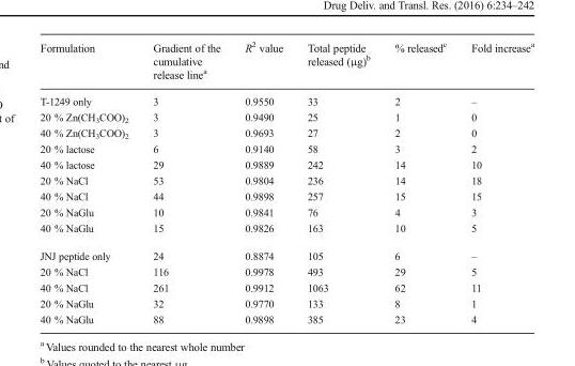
<table><thead><tr><td>Formulation</td><td>Gradient of the cumulative release line<sup>a</sup></td><td>R<sup>2</sup> value</td><td>Total peptide released (μg)<sup>b</sup></td><td>% released<sup>c</sup></td><td>Fold increase<sup>a</sup></td></tr></thead><tbody><tr><td>T-1249 only</td><td>3</td><td>0.9550</td><td>33</td><td>2</td><td>–</td></tr><tr><td>20 % Zn(CH<sub>3</sub>COO)<sub>2</sub></td><td>3</td><td>0.9490</td><td>25</td><td>1</td><td>0</td></tr><tr><td>40 % Zn(CH<sub>3</sub>COO)<sub>2</sub></td><td>3</td><td>0.9693</td><td>27</td><td>2</td><td>0</td></tr><tr><td>20 % lactose</td><td>6</td><td>0.9140</td><td>58</td><td>3</td><td>2</td></tr><tr><td>40 % lactose</td><td>29</td><td>0.9889</td><td>242</td><td>14</td><td>10</td></tr><tr><td>20 % NaCl</td><td>53</td><td>0.9804</td><td>236</td><td>14</td><td>18</td></tr><tr><td>40 % NaCl</td><td>44</td><td>0.9898</td><td>257</td><td>15</td><td>15</td></tr><tr><td>20 % NaGlu</td><td>10</td><td>0.9841</td><td>76</td><td>4</td><td>3</td></tr><tr><td>40 % NaGlu</td><td>15</td><td>0.9826</td><td>163</td><td>10</td><td>5</td></tr><tr><td>JNJ peptide only</td><td>24</td><td>0.8874</td><td>105</td><td>6</td><td>–</td></tr><tr><td>20 % NaCl</td><td>116</td><td>0.9978</td><td>493</td><td>29</td><td>5</td></tr><tr><td>40 % NaCl</td><td>261</td><td>0.9912</td><td>1063</td><td>62</td><td>11</td></tr><tr><td>20 % NaGlu</td><td>32</td><td>0.9770</td><td>133</td><td>8</td><td>1</td></tr><tr><td>40 % NaGlu</td><td>88</td><td>0.9898</td><td>385</td><td>23</td><td>4</td></tr></tbody></table>